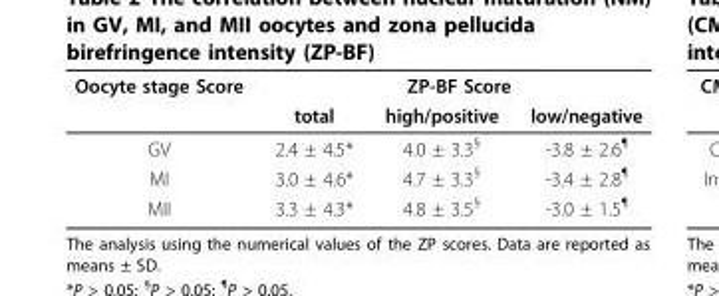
<table><thead><tr><td rowspan="2">Oocyte stage Score</td><td colspan="3">ZP-BF Score</td></tr><tr><td>total</td><td>high/positive</td><td>low/negative</td></tr></thead><tbody><tr><td>GV</td><td>2.4 ± 4.5*</td><td>4.0 ± 3.3<sup>§</sup></td><td>-3.8 ± 2.6<sup>¶</sup></td></tr><tr><td>MI</td><td>3.0 ± 4.6*</td><td>4.7 ± 3.3<sup>§</sup></td><td>-3.4 ± 2.8<sup>¶</sup></td></tr><tr><td>MII</td><td>3.3 ± 4.3*</td><td>4.8 ± 3.5<sup>§</sup></td><td>-3.0 ± 1.5<sup>¶</sup></td></tr></tbody></table>